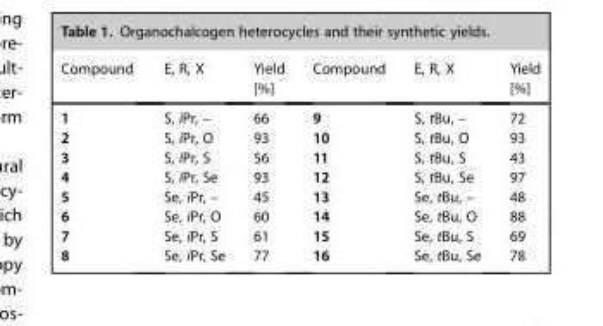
<table><thead><tr><td>Compound</td><td>E, R, X</td><td>Yield [%]</td><td>Compound</td><td>E, R, X</td><td>Yield [%]</td></tr></thead><tbody><tr><td>1</td><td>S, iPr, –</td><td>66</td><td>9</td><td>S, tBu, –</td><td>72</td></tr><tr><td>2</td><td>S, iPr, O</td><td>93</td><td>10</td><td>S, tBu, O</td><td>93</td></tr><tr><td>3</td><td>S, iPr, S</td><td>56</td><td>11</td><td>S, tBu, S</td><td>43</td></tr><tr><td>4</td><td>S, iPr, Se</td><td>93</td><td>12</td><td>S, tBu, Se</td><td>97</td></tr><tr><td>5</td><td>Se, iPr, –</td><td>45</td><td>13</td><td>Se, tBu, –</td><td>48</td></tr><tr><td>6</td><td>Se, iPr, O</td><td>60</td><td>14</td><td>Se, tBu, O</td><td>88</td></tr><tr><td>7</td><td>Se, iPr, S</td><td>61</td><td>15</td><td>Se, tBu, S</td><td>69</td></tr><tr><td>8</td><td>Se, iPr, Se</td><td>77</td><td>16</td><td>Se, tBu, Se</td><td>78</td></tr></tbody></table>